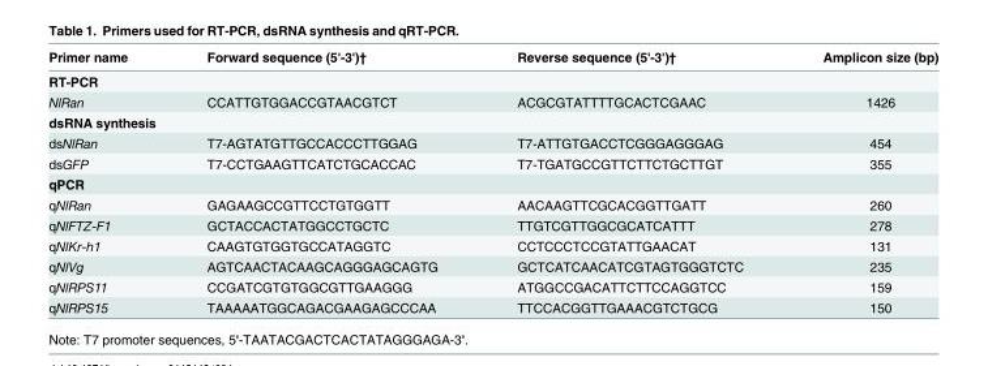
<table><thead><tr><td>Primer name</td><td>Forward sequence (5&#x27;-3&#x27;)†</td><td>Reverse sequence (5&#x27;-3&#x27;)†</td><td>Amplicon size (bp)</td></tr></thead><tbody><tr><td colspan="4">RT-PCR</td></tr><tr><td>NlRan</td><td>CCATTGTGGACCGTAACGTCT</td><td>ACGCGTATTTTGCACTCGAAC</td><td>1426</td></tr><tr><td colspan="4">dsRNA synthesis</td></tr><tr><td>dsNlRan</td><td>T7-AGTATGTTGCCACCCTTGGAG</td><td>T7-ATTGTGACCTCGGGAGGGAG</td><td>454</td></tr><tr><td>dsGFP</td><td>T7-CCTGAAGTTCATCTGCACCAC</td><td>T7-TGATGCCGTTCTTCTGCTTGT</td><td>355</td></tr><tr><td colspan="4">qPCR</td></tr><tr><td>qNlRan</td><td>GAGAAGCCGTTCCTGTGGTT</td><td>AACAAGTTCGCACGGTTGATT</td><td>260</td></tr><tr><td>qNlFTZ-F1</td><td>GCTACCACTATGGCCTGCTC</td><td>TTGTCGTTGGCGCATCATTT</td><td>278</td></tr><tr><td>qNlKr-h1</td><td>CAAGTGTGGTGCCATAGGTC</td><td>CCTCCCTCCGTATTGAACAT</td><td>131</td></tr><tr><td>qNlVg</td><td>AGTCAACTACAAGCAGGGAGCAGTG</td><td>GCTCATCAACATCGTAGTGGGTCTC</td><td>235</td></tr><tr><td>qNlRPS11</td><td>CCGATCGTGTGGCGTTGAAGGG</td><td>ATGGCCGACATTCTTCCAGGTCC</td><td>159</td></tr><tr><td>qNlRPS15</td><td>TAAAAATGGCAGACGAAGAGCCCAA</td><td>TTCCACGGTTGAAACGTCTGCG</td><td>150</td></tr></tbody></table>